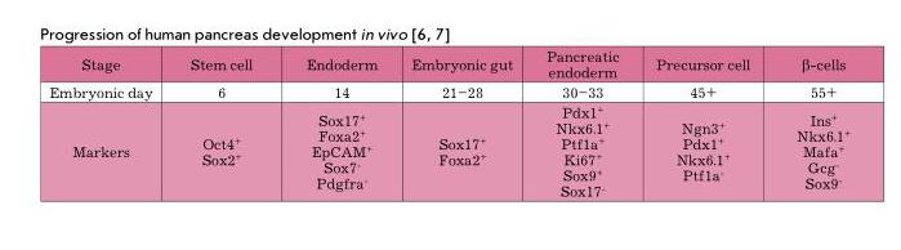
<table><thead><tr><td>Stage</td><td>Stem cell</td><td>Endoderm</td><td>Embryonic gut</td><td>Pancreatic endoderm</td><td>Precursor cell</td><td>β-cells</td></tr></thead><tbody><tr><td>Embryonic day</td><td>6</td><td>14</td><td>21–28</td><td>30–33</td><td>45+</td><td>55+</td></tr><tr><td>Markers</td><td>Oct4<sup>+</sup> Sox2<sup>+</sup></td><td>Sox17<sup>+</sup> Foxa2<sup>+</sup> EpCAM<sup>+</sup> Sox7<sup>-</sup> Pdgfra<sup>-</sup></td><td>Sox17<sup>+</sup> Foxa2<sup>+</sup></td><td>Pdx1<sup>+</sup> Nkx6.1<sup>+</sup> Ptf1a<sup>+</sup> Ki67<sup>+</sup> Sox9<sup>+</sup> Sox17<sup>-</sup></td><td>Ngn3<sup>+</sup> Pdx1<sup>+</sup> Nkx6.1<sup>+</sup> Ptf1a<sup>-</sup></td><td>Ins<sup>+</sup> Nkx6.1<sup>+</sup> Mafa<sup>+</sup> Gcg<sup>-</sup> Sox9<sup>-</sup></td></tr></tbody></table>